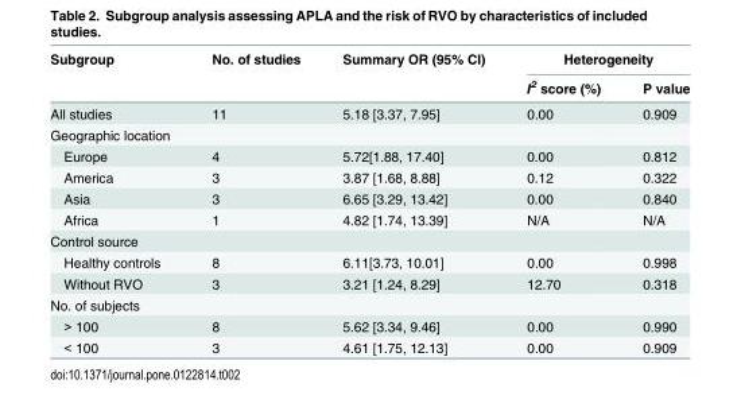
<table><thead><tr><td rowspan="2">Subgroup</td><td rowspan="2">No. of studies</td><td rowspan="2">Summary OR (95% CI)</td><td colspan="2">Heterogeneity</td></tr><tr><td>I<sup>2</sup> score (%)</td><td>P value</td></tr></thead><tbody><tr><td>All studies</td><td>11</td><td>5.18 [3.37, 7.95]</td><td>0.00</td><td>0.909</td></tr><tr><td colspan="5">Geographic location</td></tr><tr><td>Europe</td><td>4</td><td>5.72[1.88, 17.40]</td><td>0.00</td><td>0.812</td></tr><tr><td>America</td><td>3</td><td>3.87 [1.68, 8.88]</td><td>0.12</td><td>0.322</td></tr><tr><td>Asia</td><td>3</td><td>6.65 [3.29, 13.42]</td><td>0.00</td><td>0.840</td></tr><tr><td>Africa</td><td>1</td><td>4.82 [1.74, 13.39]</td><td>N/A</td><td>N/A</td></tr><tr><td colspan="5">Control source</td></tr><tr><td>Healthy controls</td><td>8</td><td>6.11[3.73, 10.01]</td><td>0.00</td><td>0.998</td></tr><tr><td>Without RVO</td><td>3</td><td>3.21 [1.24, 8.29]</td><td>12.70</td><td>0.318</td></tr><tr><td colspan="5">No. of subjects</td></tr><tr><td>&gt; 100</td><td>8</td><td>5.62 [3.34, 9.46]</td><td>0.00</td><td>0.990</td></tr><tr><td>&lt; 100</td><td>3</td><td>4.61 [1.75, 12.13]</td><td>0.00</td><td>0.909</td></tr></tbody></table>